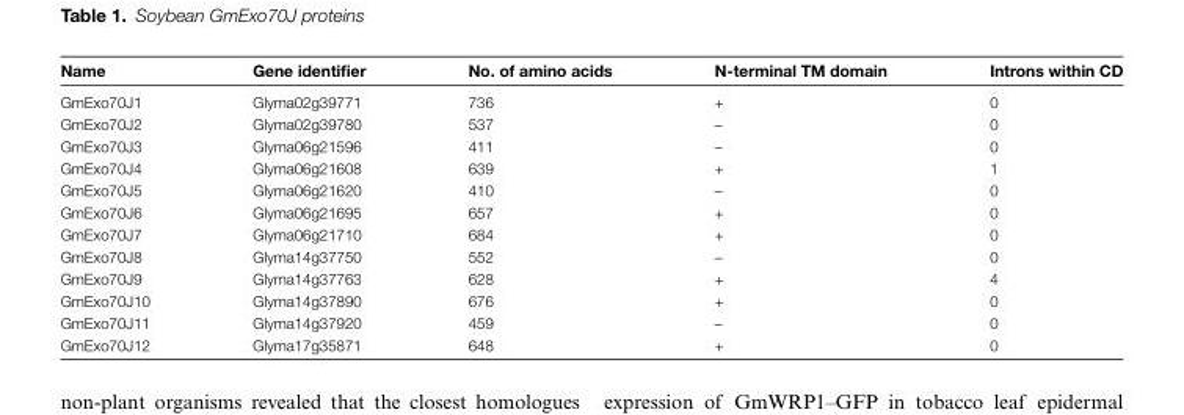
<table><thead><tr><td>Name</td><td>Gene identifier</td><td>No. of amino acids</td><td>N-terminal TM domain</td><td>Introns within CD</td></tr></thead><tbody><tr><td>GmExo70J1</td><td>Glyma02g39771</td><td>736</td><td>+</td><td>0</td></tr><tr><td>GmExo70J2</td><td>Glyma02g39780</td><td>537</td><td>–</td><td>0</td></tr><tr><td>GmExo70J3</td><td>Glyma06g21596</td><td>411</td><td>–</td><td>0</td></tr><tr><td>GmExo70J4</td><td>Glyma06g21608</td><td>639</td><td>+</td><td>1</td></tr><tr><td>GmExo70J5</td><td>Glyma06g21620</td><td>410</td><td>–</td><td>0</td></tr><tr><td>GmExo70J6</td><td>Glyma06g21695</td><td>657</td><td>+</td><td>0</td></tr><tr><td>GmExo70J7</td><td>Glyma06g21710</td><td>684</td><td>+</td><td>0</td></tr><tr><td>GmExo70J8</td><td>Glyma14g37750</td><td>552</td><td>–</td><td>0</td></tr><tr><td>GmExo70J9</td><td>Glyma14g37763</td><td>628</td><td>+</td><td>4</td></tr><tr><td>GmExo70J10</td><td>Glyma14g37890</td><td>676</td><td>+</td><td>0</td></tr><tr><td>GmExo70J11</td><td>Glyma14g37920</td><td>459</td><td>–</td><td>0</td></tr><tr><td>GmExo70J12</td><td>Glyma17g35871</td><td>648</td><td>+</td><td>0</td></tr></tbody></table>